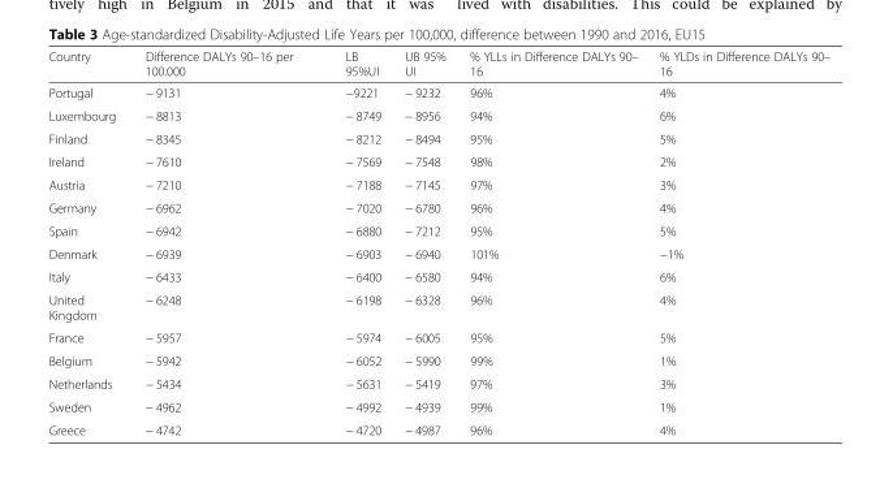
<table><thead><tr><td>Country</td><td>Difference DALYs 90–16 per 100.000</td><td>LB 95%UI</td><td>UB 95% UI</td><td>% YLLs in Difference DALYs 90– 16</td><td>% YLDs in Difference DALYs 90– 16</td></tr></thead><tbody><tr><td>Portugal</td><td>− 9131</td><td>−9221</td><td>− 9232</td><td>96%</td><td>4%</td></tr><tr><td>Luxembourg</td><td>− 8813</td><td>− 8749</td><td>− 8956</td><td>94%</td><td>6%</td></tr><tr><td>Finland</td><td>− 8345</td><td>− 8212</td><td>− 8494</td><td>95%</td><td>5%</td></tr><tr><td>Ireland</td><td>− 7610</td><td>− 7569</td><td>− 7548</td><td>98%</td><td>2%</td></tr><tr><td>Austria</td><td>− 7210</td><td>− 7188</td><td>− 7145</td><td>97%</td><td>3%</td></tr><tr><td>Germany</td><td>− 6962</td><td>− 7020</td><td>− 6780</td><td>96%</td><td>4%</td></tr><tr><td>Spain</td><td>− 6942</td><td>− 6880</td><td>− 7212</td><td>95%</td><td>5%</td></tr><tr><td>Denmark</td><td>− 6939</td><td>− 6903</td><td>− 6940</td><td>101%</td><td>−1%</td></tr><tr><td>Italy</td><td>− 6433</td><td>− 6400</td><td>− 6580</td><td>94%</td><td>6%</td></tr><tr><td>United Kingdom</td><td>− 6248</td><td>− 6198</td><td>− 6328</td><td>96%</td><td>4%</td></tr><tr><td>France</td><td>− 5957</td><td>− 5974</td><td>− 6005</td><td>95%</td><td>5%</td></tr><tr><td>Belgium</td><td>− 5942</td><td>− 6052</td><td>− 5990</td><td>99%</td><td>1%</td></tr><tr><td>Netherlands</td><td>− 5434</td><td>− 5631</td><td>− 5419</td><td>97%</td><td>3%</td></tr><tr><td>Sweden</td><td>− 4962</td><td>− 4992</td><td>− 4939</td><td>99%</td><td>1%</td></tr><tr><td>Greece</td><td>− 4742</td><td>− 4720</td><td>− 4987</td><td>96%</td><td>4%</td></tr></tbody></table>